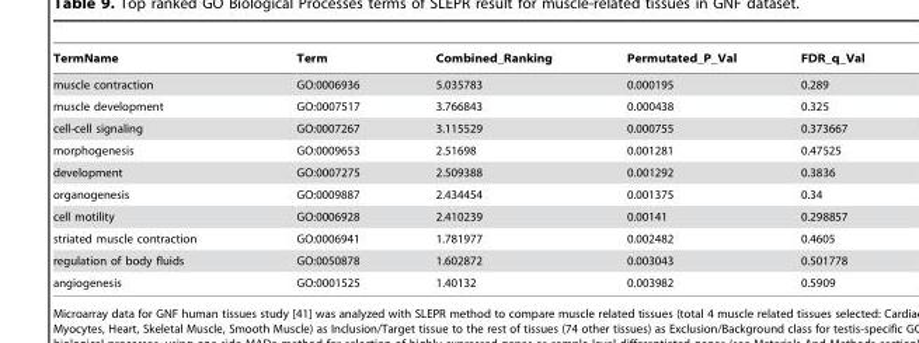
<table><thead><tr><td>TermName</td><td>Term</td><td>Combined_Ranking</td><td>Permutated_P_Val</td><td>FDR_q_Val</td></tr></thead><tbody><tr><td>muscle contraction</td><td>GO:0006936</td><td>5.035783</td><td>0.000195</td><td>0.289</td></tr><tr><td>muscle development</td><td>GO:0007517</td><td>3.766843</td><td>0.000438</td><td>0.325</td></tr><tr><td>cell-cell signaling</td><td>GO:0007267</td><td>3.115529</td><td>0.000755</td><td>0.373667</td></tr><tr><td>morphogenesis</td><td>GO:0009653</td><td>2.51698</td><td>0.001281</td><td>0.47525</td></tr><tr><td>development</td><td>GO:0007275</td><td>2.509388</td><td>0.001292</td><td>0.3836</td></tr><tr><td>organogenesis</td><td>GO:0009887</td><td>2.434454</td><td>0.001375</td><td>0.34</td></tr><tr><td>cell motility</td><td>GO:0006928</td><td>2.410239</td><td>0.00141</td><td>0.298857</td></tr><tr><td>striated muscle contraction</td><td>GO:0006941</td><td>1.781977</td><td>0.002482</td><td>0.4605</td></tr><tr><td>regulation of body fluids</td><td>GO:0050878</td><td>1.602872</td><td>0.003043</td><td>0.501778</td></tr><tr><td>angiogenesis</td><td>GO:0001525</td><td>1.40132</td><td>0.003982</td><td>0.5909</td></tr></tbody></table>